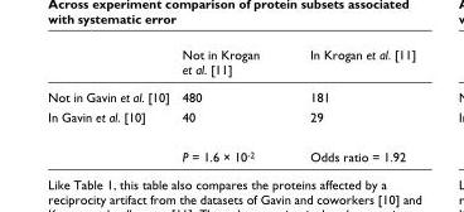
<table><thead><tr><td></td><td>Not in Krogan et al. [11]</td><td>In Krogan et al. [11]</td></tr></thead><tbody><tr><td>Not in Gavin et al. [10]</td><td>480</td><td>181</td></tr><tr><td rowspan="2">In Gavin et al. [10]</td><td>40</td><td>29</td></tr><tr><td>P = 1.6 × 10<sup>-2</sup></td><td>Odds ratio = 1.92</td></tr></tbody></table>